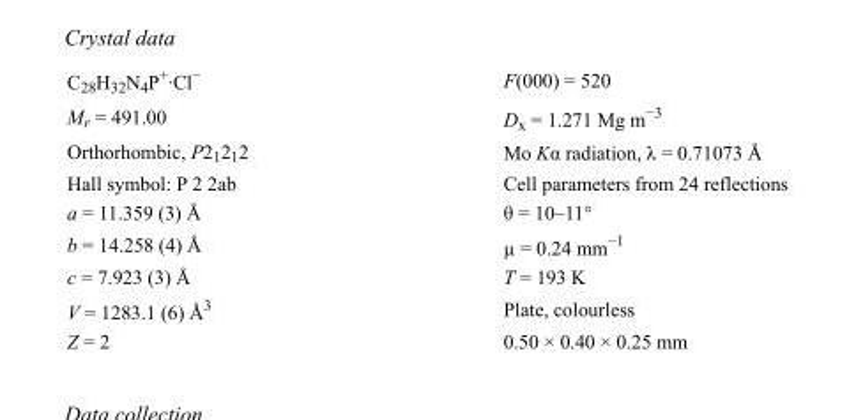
<table><tbody><tr><td>C<sub>28</sub>H<sub>32</sub>N<sub>4</sub>P<sup>+</sup>·Cl<sup>−</sup></td><td>F(000) = 520</td></tr><tr><td>M<sub>r</sub> = 491.00</td><td>D<sub>x</sub> = 1.271 Mg m<sup>−3</sup></td></tr><tr><td>Orthorhombic, P2<sub>1</sub>2<sub>1</sub>2</td><td>Mo Kα radiation, λ = 0.71073 Å</td></tr><tr><td>Hall symbol: P 2 2ab</td><td>Cell parameters from 24 reflections</td></tr><tr><td>a = 11.359 (3) Å</td><td>θ = 10–11°</td></tr><tr><td>b = 14.258 (4) Å</td><td>µ = 0.24 mm<sup>−1</sup></td></tr><tr><td>c = 7.923 (3) Å</td><td>T = 193 K</td></tr><tr><td>V = 1283.1 (6) Å<sup>3</sup></td><td>Plate, colourless</td></tr><tr><td>Z = 2</td><td>0.50 × 0.40 × 0.25 mm</td></tr></tbody></table>